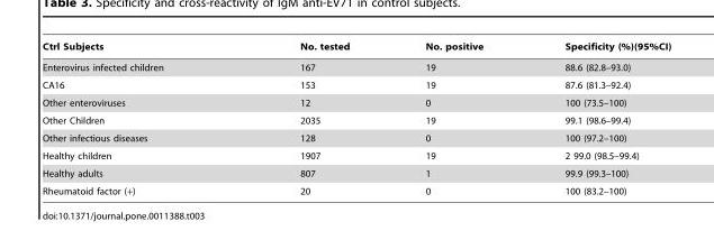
<table><thead><tr><td>Ctrl Subjects</td><td>No. tested</td><td>No. positive</td><td>Specificity (%)(95%CI)</td></tr></thead><tbody><tr><td>Enterovirus infected children</td><td>167</td><td>19</td><td>88.6 (82.8–93.0)</td></tr><tr><td>CA16</td><td>153</td><td>19</td><td>87.6 (81.3–92.4)</td></tr><tr><td>Other enteroviruses</td><td>12</td><td>0</td><td>100 (73.5–100)</td></tr><tr><td>Other Children</td><td>2035</td><td>19</td><td>99.1 (98.6–99.4)</td></tr><tr><td>Other infectious diseases</td><td>128</td><td>0</td><td>100 (97.2–100)</td></tr><tr><td>Healthy children</td><td>1907</td><td>19</td><td>2 99.0 (98.5–99.4)</td></tr><tr><td>Healthy adults</td><td>807</td><td>1</td><td>99.9 (99.3–100)</td></tr><tr><td>Rheumatoid factor (+)</td><td>20</td><td>0</td><td>100 (83.2–100)</td></tr></tbody></table>